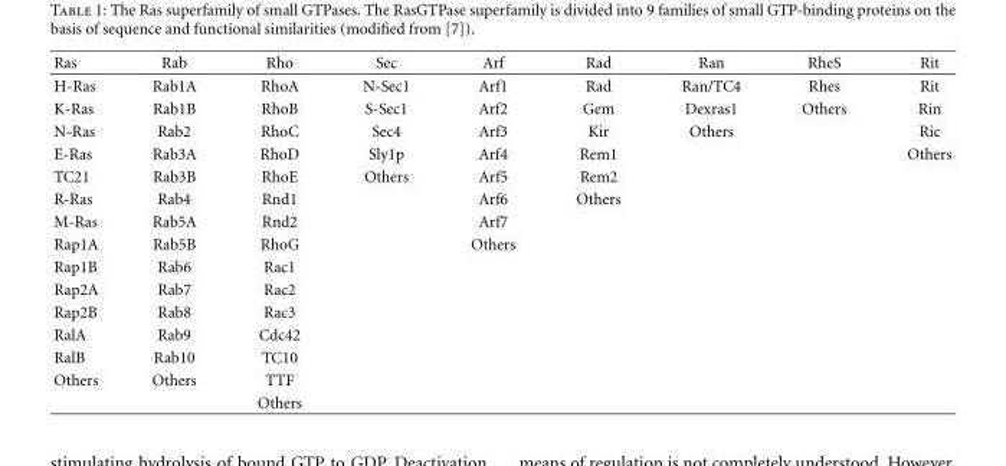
<table><thead><tr><td>Ras</td><td>Rab</td><td>Rho</td><td>Sec</td><td>Arf</td><td>Rad</td><td>Ran</td><td>RheS</td><td>Rit</td></tr></thead><tbody><tr><td>H-Ras</td><td>Rab1A</td><td>RhoA</td><td>N-Sec1</td><td>Arf1</td><td>Rad</td><td>Ran/TC4</td><td>Rhes</td><td>Rit</td></tr><tr><td>K-Ras</td><td>Rab1B</td><td>RhoB</td><td>S-Sec1</td><td>Arf2</td><td>Gem</td><td>Dexras1</td><td>Others</td><td>Rin</td></tr><tr><td>N-Ras</td><td>Rab2</td><td>RhoC</td><td>Sec4</td><td>Arf3</td><td>Kir</td><td>Others</td><td></td><td>Ric</td></tr><tr><td>E-Ras</td><td>Rab3A</td><td>RhoD</td><td>Sly1p</td><td>Arf4</td><td>Rem1</td><td></td><td></td><td>Others</td></tr><tr><td>TC21</td><td>Rab3B</td><td>RhoE</td><td>Others</td><td>Arf5</td><td>Rem2</td><td></td><td></td><td></td></tr><tr><td>R-Ras</td><td>Rab4</td><td>Rnd1</td><td></td><td>Arf6</td><td>Others</td><td></td><td></td><td></td></tr><tr><td>M-Ras</td><td>Rab5A</td><td>Rnd2</td><td></td><td>Arf7</td><td></td><td></td><td></td><td></td></tr><tr><td>Rap1A</td><td>Rab5B</td><td>RhoG</td><td></td><td>Others</td><td></td><td></td><td></td><td></td></tr><tr><td>Rap1B</td><td>Rab6</td><td>Rac1</td><td></td><td></td><td></td><td></td><td></td><td></td></tr><tr><td>Rap2A</td><td>Rab7</td><td>Rac2</td><td></td><td></td><td></td><td></td><td></td><td></td></tr><tr><td>Rap2B</td><td>Rab8</td><td>Rac3</td><td></td><td></td><td></td><td></td><td></td><td></td></tr><tr><td>RalA</td><td>Rab9</td><td>Cdc42</td><td></td><td></td><td></td><td></td><td></td><td></td></tr><tr><td>RalB</td><td>Rab10</td><td>TC10</td><td></td><td></td><td></td><td></td><td></td><td></td></tr><tr><td rowspan="2">Others</td><td>Others</td><td>TTF</td><td></td><td></td><td></td><td></td><td></td><td></td></tr><tr><td></td><td>Others</td><td></td><td></td><td></td><td></td><td></td><td></td></tr></tbody></table>